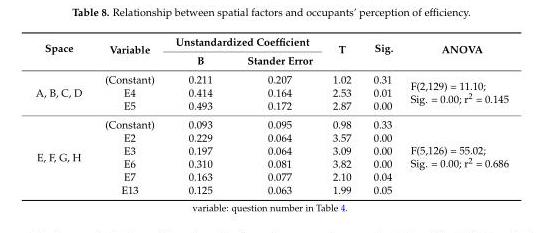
<table><thead><tr><td rowspan="2">Space</td><td rowspan="2">Variable</td><td colspan="2">Unstandardized Coefficient</td><td rowspan="2">T</td><td rowspan="2">Sig.</td><td rowspan="2">ANOVA</td></tr><tr><td>B</td><td>Stander Error</td></tr></thead><tbody><tr><td rowspan="3">A, B, C, D</td><td>(Constant)</td><td>0.211</td><td>0.207</td><td>1.02</td><td>0.31</td><td rowspan="3">F(2,129) = 11.10; Sig. = 0.00; r<sup>2</sup> = 0.145</td></tr><tr><td>E4</td><td>0.414</td><td>0.164</td><td>2.53</td><td>0.01</td></tr><tr><td>E5</td><td>0.493</td><td>0.172</td><td>2.87</td><td>0.00</td></tr><tr><td rowspan="6">E, F, G, H</td><td>(Constant)</td><td>0.093</td><td>0.095</td><td>0.98</td><td>0.33</td><td rowspan="6">F(5,126) = 55.02; Sig. = 0.00; r<sup>2</sup> = 0.686</td></tr><tr><td>E2</td><td>0.229</td><td>0.064</td><td>3.57</td><td>0.00</td></tr><tr><td>E3</td><td>0.197</td><td>0.064</td><td>3.09</td><td>0.00</td></tr><tr><td>E6</td><td>0.310</td><td>0.081</td><td>3.82</td><td>0.00</td></tr><tr><td>E7</td><td>0.163</td><td>0.077</td><td>2.10</td><td>0.04</td></tr><tr><td>E13</td><td>0.125</td><td>0.063</td><td>1.99</td><td>0.05</td></tr></tbody></table>